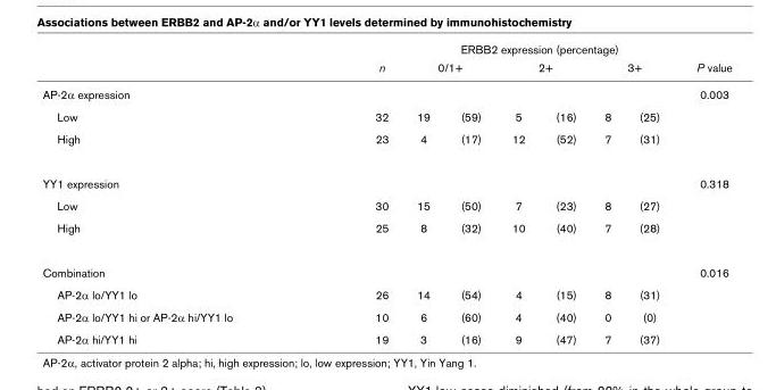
<table><thead><tr><td rowspan="3">AP-2α expression</td><td rowspan="3">n</td><td colspan="6">ERBB2 expression (percentage)</td><td rowspan="3">P value 0.003</td></tr><tr><td colspan="2">0/1+</td><td colspan="2">2+</td><td colspan="2">3+</td></tr><tr><td></td><td></td><td></td><td></td><td></td><td></td></tr></thead><tbody><tr><td>Low</td><td>32</td><td>19</td><td>(59)</td><td>5</td><td>(16)</td><td>8</td><td>(25)</td><td></td></tr><tr><td>High</td><td>23</td><td>4</td><td>(17)</td><td>12</td><td>(52)</td><td>7</td><td>(31)</td><td></td></tr><tr><td>YY1 expression</td><td></td><td></td><td></td><td></td><td></td><td></td><td></td><td>0.318</td></tr><tr><td>Low</td><td>30</td><td>15</td><td>(50)</td><td>7</td><td>(23)</td><td>8</td><td>(27)</td><td></td></tr><tr><td>High</td><td>25</td><td>8</td><td>(32)</td><td>10</td><td>(40)</td><td>7</td><td>(28)</td><td></td></tr><tr><td>Combination</td><td></td><td></td><td></td><td></td><td></td><td></td><td></td><td>0.016</td></tr><tr><td>AP-2α lo/YY1 lo</td><td>26</td><td>14</td><td>(54)</td><td>4</td><td>(15)</td><td>8</td><td>(31)</td><td></td></tr><tr><td>AP-2α lo/YY1 hi or AP-2α hi/YY1 lo</td><td>10</td><td>6</td><td>(60)</td><td>4</td><td>(40)</td><td>0</td><td>(0)</td><td></td></tr><tr><td>AP-2α hi/YY1 hi</td><td>19</td><td>3</td><td>(16)</td><td>9</td><td>(47)</td><td>7</td><td>(37)</td><td></td></tr></tbody></table>